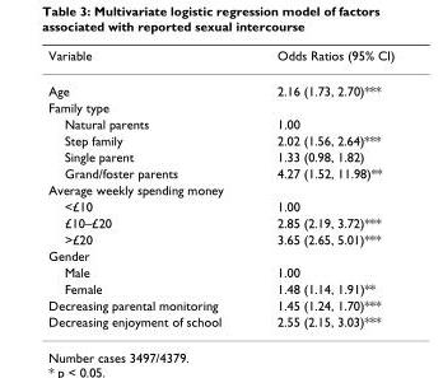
<table><thead><tr><td>Variable</td><td>Odds Ratios (95% CI)</td></tr></thead><tbody><tr><td>Age</td><td>2.16 (1.73, 2.70)***</td></tr><tr><td colspan="2">Family type</td></tr><tr><td>Natural parents</td><td>1.00</td></tr><tr><td>Step family</td><td>2.02 (1.56, 2.64)***</td></tr><tr><td>Single parent</td><td>1.33 (0.98, 1.82)</td></tr><tr><td>Grand/foster parents</td><td>4.27 (1.52, 11.98)**</td></tr><tr><td colspan="2">Average weekly spending money</td></tr><tr><td>&lt;£10</td><td>1.00</td></tr><tr><td>£10–£20</td><td>2.85 (2.19, 3.72)***</td></tr><tr><td>&gt;£20</td><td>3.65 (2.65, 5.01)***</td></tr><tr><td colspan="2">Gender</td></tr><tr><td>Male</td><td>1.00</td></tr><tr><td>Female</td><td>1.48 (1.14, 1.91)**</td></tr><tr><td>Decreasing parental monitoring</td><td>1.45 (1.24, 1.70)***</td></tr><tr><td>Decreasing enjoyment of school</td><td>2.55 (2.15, 3.03)***</td></tr></tbody></table>